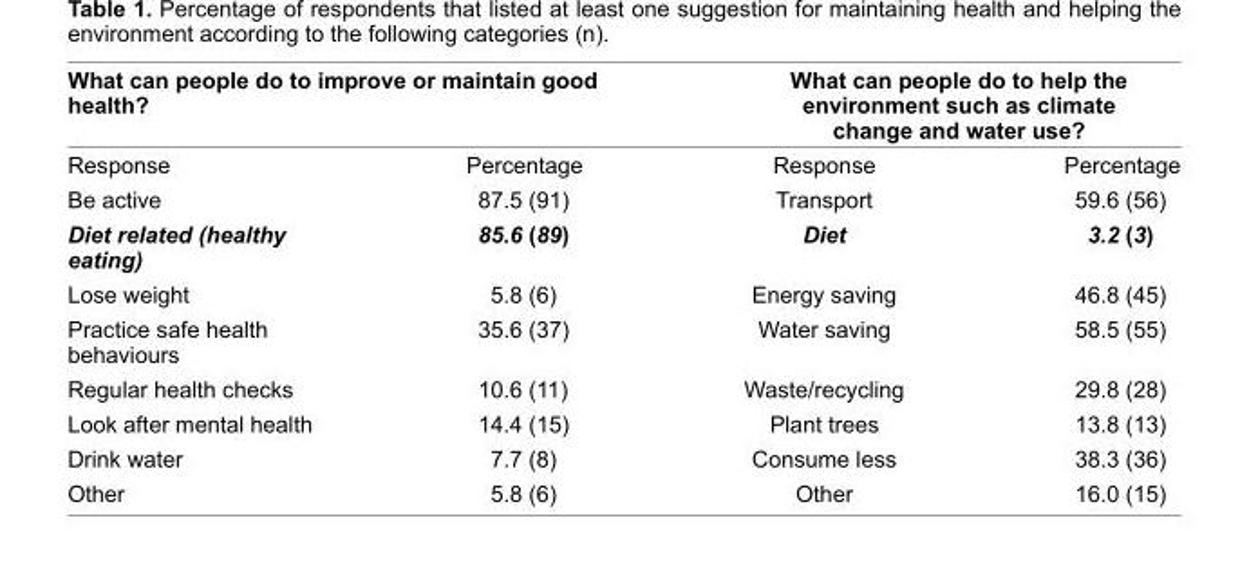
<table><thead><tr><td colspan="2">What can people do to improve or maintain good health?</td><td colspan="2">What can people do to help the environment such as climate change and water use?</td></tr><tr><td>Response</td><td>Percentage</td><td>Response</td><td>Percentage</td></tr></thead><tbody><tr><td>Be active</td><td>87.5 (91)</td><td>Transport</td><td>59.6 (56)</td></tr><tr><td>Diet related (healthy eating)</td><td>85.6 (89)</td><td>Diet</td><td>3.2 (3)</td></tr><tr><td>Lose weight</td><td>5.8 (6)</td><td>Energy saving</td><td>46.8 (45)</td></tr><tr><td>Practice safe health behaviours</td><td>35.6 (37)</td><td>Water saving</td><td>58.5 (55)</td></tr><tr><td>Regular health checks</td><td>10.6 (11)</td><td>Waste/recycling</td><td>29.8 (28)</td></tr><tr><td>Look after mental health</td><td>14.4 (15)</td><td>Plant trees</td><td>13.8 (13)</td></tr><tr><td>Drink water</td><td>7.7 (8)</td><td>Consume less</td><td>38.3 (36)</td></tr><tr><td>Other</td><td>5.8 (6)</td><td>Other</td><td>16.0 (15)</td></tr></tbody></table>